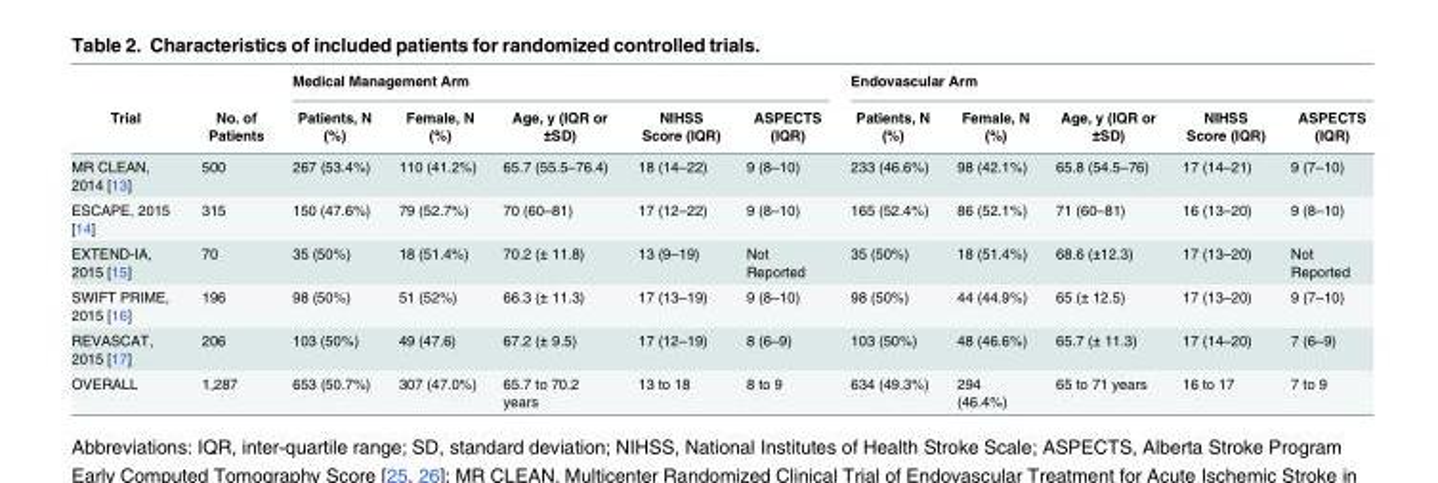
<table><thead><tr><td rowspan="2">Trial</td><td rowspan="2">No. of Patients</td><td colspan="5">Medical Management Arm</td><td colspan="5">Endovascular Arm</td></tr><tr><td>Patients, N (%)</td><td>Female, N (%)</td><td>Age, y (IQR or ±SD)</td><td>NIHSS Score (IQR)</td><td>ASPECTS (IQR)</td><td>Patients, N (%)</td><td>Female, N (%)</td><td>Age, y (IQR or ±SD)</td><td>NIHSS Score (IQR)</td><td>ASPECTS (IQR)</td></tr></thead><tbody><tr><td>MR CLEAN, 2014 [13]</td><td>500</td><td>267 (53.4%)</td><td>110 (41.2%)</td><td>65.7 (55.5–76.4)</td><td>18 (14–22)</td><td>9 (8–10)</td><td>233 (46.6%)</td><td>98 (42.1%)</td><td>65.8 (54.5–76)</td><td>17 (14–21)</td><td>9 (7–10)</td></tr><tr><td>ESCAPE, 2015 [14]</td><td>315</td><td>150 (47.6%)</td><td>79 (52.7%)</td><td>70 (60–81)</td><td>17 (12–22)</td><td>9 (8–10)</td><td>165 (52.4%)</td><td>86 (52.1%)</td><td>71 (60–81)</td><td>16 (13–20)</td><td>9 (8–10)</td></tr><tr><td>EXTEND-IA, 2015 [15]</td><td>70</td><td>35 (50%)</td><td>18 (51.4%)</td><td>70.2 (± 11.8)</td><td>13 (9–19)</td><td>Not Reported</td><td>35 (50%)</td><td>18 (51.4%)</td><td>68.6 (±12.3)</td><td>17 (13–20)</td><td>Not Reported</td></tr><tr><td>SWIFT PRIME, 2015 [16]</td><td>196</td><td>98 (50%)</td><td>51 (52%)</td><td>66.3 (± 11.3)</td><td>17 (13–19)</td><td>9 (8–10)</td><td>98 (50%)</td><td>44 (44.9%)</td><td>65 (± 12.5)</td><td>17 (13–20)</td><td>9 (7–10)</td></tr><tr><td>REVASCAT, 2015 [17]</td><td>206</td><td>103 (50%)</td><td>49 (47.6)</td><td>67.2 (± 9.5)</td><td>17 (12–19)</td><td>8 (6–9)</td><td>103 (50%)</td><td>48 (46.6%)</td><td>65.7 (± 11.3)</td><td>17 (14–20)</td><td>7 (6–9)</td></tr><tr><td>OVERALL</td><td>1,287</td><td>653 (50.7%)</td><td>307 (47.0%)</td><td>65.7 to 70.2 years</td><td>13 to 18</td><td>8 to 9</td><td>634 (49.3%)</td><td>294 (46.4%)</td><td>65 to 71 years</td><td>16 to 17</td><td>7 to 9</td></tr></tbody></table>